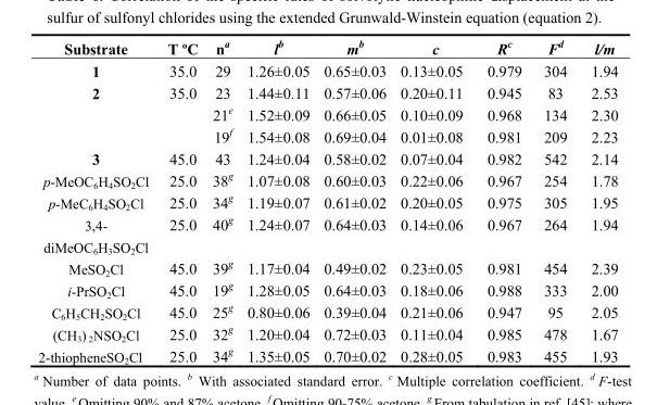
<table><thead><tr><td>Substrate</td><td>T ºC</td><td>n<sup>a</sup></td><td>l<sup>b</sup></td><td>m<sup>b</sup></td><td>c</td><td>R<sup>c</sup></td><td>F<sup>d</sup></td><td>l/m</td></tr></thead><tbody><tr><td>1</td><td>35.0</td><td>29</td><td>1.26±0.05</td><td>0.65±0.03</td><td>0.13±0.05</td><td>0.979</td><td>304</td><td>1.94</td></tr><tr><td rowspan="3">2</td><td>35.0</td><td>23</td><td>1.44±0.11</td><td>0.57±0.06</td><td>0.20±0.11</td><td>0.945</td><td>83</td><td>2.53</td></tr><tr><td></td><td>21<sup>e</sup></td><td>1.52±0.09</td><td>0.66±0.05</td><td>0.10±0.09</td><td>0.968</td><td>134</td><td>2.30</td></tr><tr><td></td><td>19<sup>f</sup></td><td>1.54±0.08</td><td>0.69±0.04</td><td>0.01±0.08</td><td>0.981</td><td>209</td><td>2.23</td></tr><tr><td>3</td><td>45.0</td><td>43</td><td>1.24±0.04</td><td>0.58±0.02</td><td>0.07±0.04</td><td>0.982</td><td>542</td><td>2.14</td></tr><tr><td>p-MeOC<sub>6</sub>H<sub>4</sub>SO<sub>2</sub>Cl</td><td>25.0</td><td>38<sup>g</sup></td><td>1.07±0.08</td><td>0.60±0.03</td><td>0.22±0.06</td><td>0.967</td><td>254</td><td>1.78</td></tr><tr><td>p-MeC<sub>6</sub>H<sub>4</sub>SO<sub>2</sub>Cl</td><td>25.0</td><td>34<sup>g</sup></td><td>1.19±0.07</td><td>0.61±0.02</td><td>0.20±0.05</td><td>0.975</td><td>305</td><td>1.95</td></tr><tr><td>3,4- diMeOC<sub>6</sub>H<sub>3</sub>SO<sub>2</sub>Cl</td><td>25.0</td><td>40<sup>g</sup></td><td>1.24±0.07</td><td>0.64±0.03</td><td>0.14±0.06</td><td>0.967</td><td>264</td><td>1.94</td></tr><tr><td>MeSO<sub>2</sub>Cl</td><td>45.0</td><td>39<sup>g</sup></td><td>1.17±0.04</td><td>0.49±0.02</td><td>0.23±0.05</td><td>0.981</td><td>454</td><td>2.39</td></tr><tr><td>i-PrSO<sub>2</sub>Cl</td><td>45.0</td><td>19<sup>g</sup></td><td>1.28±0.05</td><td>0.64±0.03</td><td>0.18±0.06</td><td>0.988</td><td>333</td><td>2.00</td></tr><tr><td>C<sub>6</sub>H<sub>5</sub>CH<sub>2</sub>SO<sub>2</sub>Cl</td><td>45.0</td><td>25<sup>g</sup></td><td>0.80±0.06</td><td>0.39±0.04</td><td>0.21±0.06</td><td>0.947</td><td>95</td><td>2.05</td></tr><tr><td>(CH<sub>3</sub>) <sub>2</sub>NSO<sub>2</sub>Cl</td><td>25.0</td><td>32<sup>g</sup></td><td>1.20±0.04</td><td>0.72±0.03</td><td>0.11±0.04</td><td>0.985</td><td>478</td><td>1.67</td></tr><tr><td>2-thiopheneSO<sub>2</sub>Cl</td><td>25.0</td><td>34<sup>g</sup></td><td>1.35±0.05</td><td>0.70±0.02</td><td>0.28±0.05</td><td>0.983</td><td>455</td><td>1.93</td></tr></tbody></table>